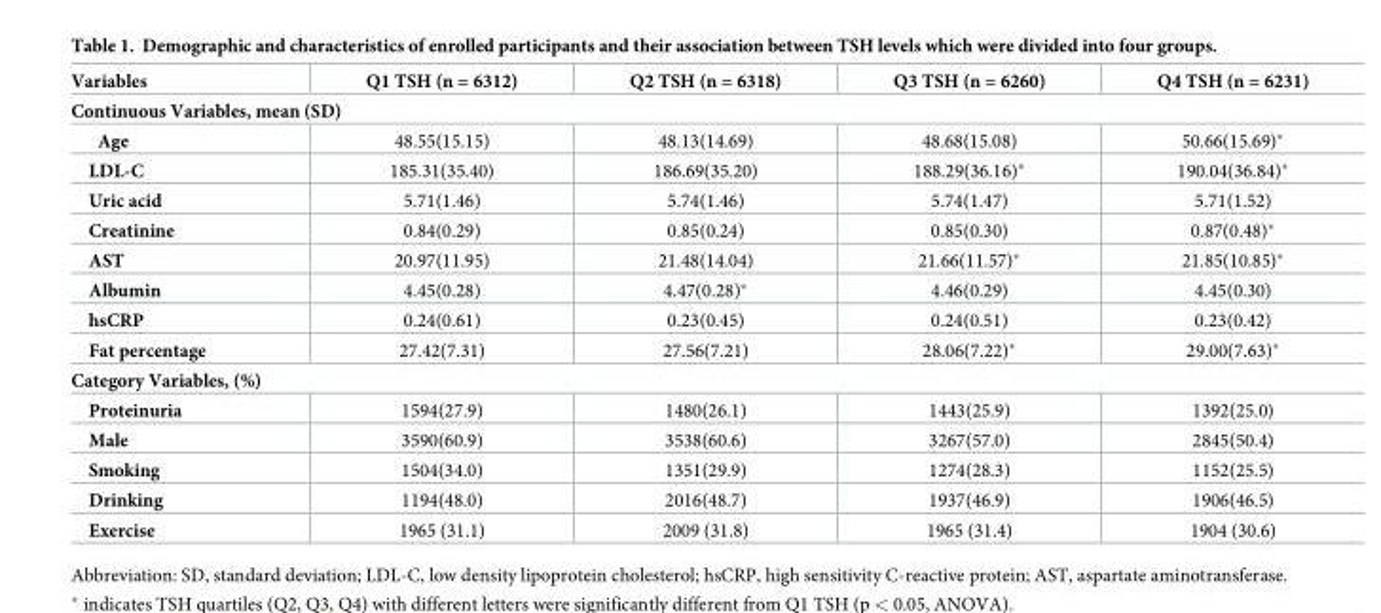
<table><thead><tr><td>Variables</td><td>Q1 TSH (n = 6312)</td><td>Q2 TSH (n = 6318)</td><td>Q3 TSH (n = 6260)</td><td>Q4 TSH (n = 6231)</td></tr></thead><tbody><tr><td colspan="5">Continuous Variables, mean (SD)</td></tr><tr><td>Age</td><td>48.55(15.15)</td><td>48.13(14.69)</td><td>48.68(15.08)</td><td>50.66(15.69)*</td></tr><tr><td>LDL-C</td><td>185.31(35.40)</td><td>186.69(35.20)</td><td>188.29(36.16)*</td><td>190.04(36.84)*</td></tr><tr><td>Uric acid</td><td>5.71(1.46)</td><td>5.74(1.46)</td><td>5.74(1.47)</td><td>5.71(1.52)</td></tr><tr><td>Creatinine</td><td>0.84(0.29)</td><td>0.85(0.24)</td><td>0.85(0.30)</td><td>0.87(0.48)*</td></tr><tr><td>AST</td><td>20.97(11.95)</td><td>21.48(14.04)</td><td>21.66(11.57)*</td><td>21.85(10.85)*</td></tr><tr><td>Albumin</td><td>4.45(0.28)</td><td>4.47(0.28)*</td><td>4.46(0.29)</td><td>4.45(0.30)</td></tr><tr><td>hsCRP</td><td>0.24(0.61)</td><td>0.23(0.45)</td><td>0.24(0.51)</td><td>0.23(0.42)</td></tr><tr><td>Fat percentage</td><td>27.42(7.31)</td><td>27.56(7.21)</td><td>28.06(7.22)*</td><td>29.00(7.63)*</td></tr><tr><td colspan="5">Category Variables, (%)</td></tr><tr><td>Proteinuria</td><td>1594(27.9)</td><td>1480(26.1)</td><td>1443(25.9)</td><td>1392(25.0)</td></tr><tr><td>Male</td><td>3590(60.9)</td><td>3538(60.6)</td><td>3267(57.0)</td><td>2845(50.4)</td></tr><tr><td>Smoking</td><td>1504(34.0)</td><td>1351(29.9)</td><td>1274(28.3)</td><td>1152(25.5)</td></tr><tr><td>Drinking</td><td>1194(48.0)</td><td>2016(48.7)</td><td>1937(46.9)</td><td>1906(46.5)</td></tr><tr><td>Exercise</td><td>1965 (31.1)</td><td>2009 (31.8)</td><td>1965 (31.4)</td><td>1904 (30.6)</td></tr></tbody></table>